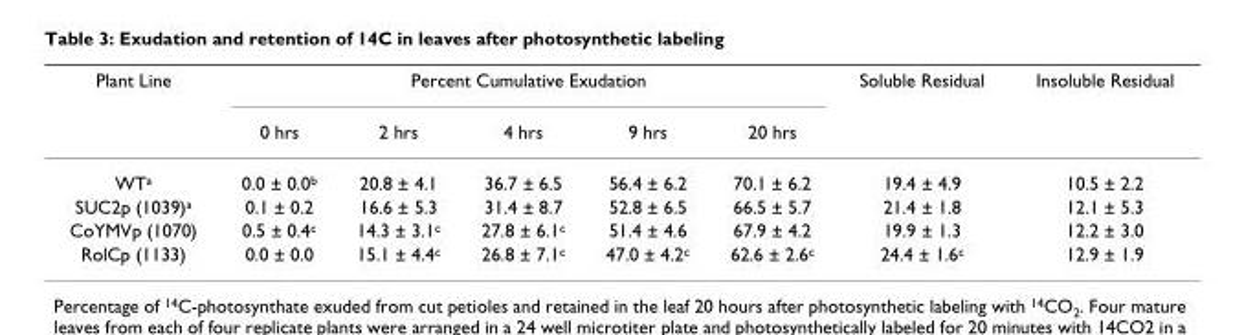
<table><thead><tr><td rowspan="2">Plant Line</td><td colspan="5">Percent Cumulative Exudation</td><td rowspan="2">Soluble Residual</td><td rowspan="2">Insoluble Residual</td></tr><tr><td>0 hrs</td><td>2 hrs</td><td>4 hrs</td><td>9 hrs</td><td>20 hrs</td></tr></thead><tbody><tr><td>WT<sup>a</sup></td><td>0.0 ± 0.0<sup>b</sup></td><td>20.8 ± 4.1</td><td>36.7 ± 6.5</td><td>56.4 ± 6.2</td><td>70.1 ± 6.2</td><td>19.4 ± 4.9</td><td>10.5 ± 2.2</td></tr><tr><td>SUC2p (1039)<sup>a</sup></td><td>0.1 ± 0.2</td><td>16.6 ± 5.3</td><td>31.4 ± 8.7</td><td>52.8 ± 6.5</td><td>66.5 ± 5.7</td><td>21.4 ± 1.8</td><td>12.1 ± 5.3</td></tr><tr><td>CoYMVp (1070)</td><td>0.5 ± 0.4<sup>c</sup></td><td>14.3 ± 3.1<sup>c</sup></td><td>27.8 ± 6.1<sup>c</sup></td><td>51.4 ± 4.6</td><td>67.9 ± 4.2</td><td>19.9 ± 1.3</td><td>12.2 ± 3.0</td></tr><tr><td>RolCp (1133)</td><td>0.0 ± 0.0</td><td>15.1 ± 4.4<sup>c</sup></td><td>26.8 ± 7.1<sup>c</sup></td><td>47.0 ± 4.2<sup>c</sup></td><td>62.6 ± 2.6<sup>c</sup></td><td>24.4 ± 1.6<sup>c</sup></td><td>12.9 ± 1.9</td></tr></tbody></table>